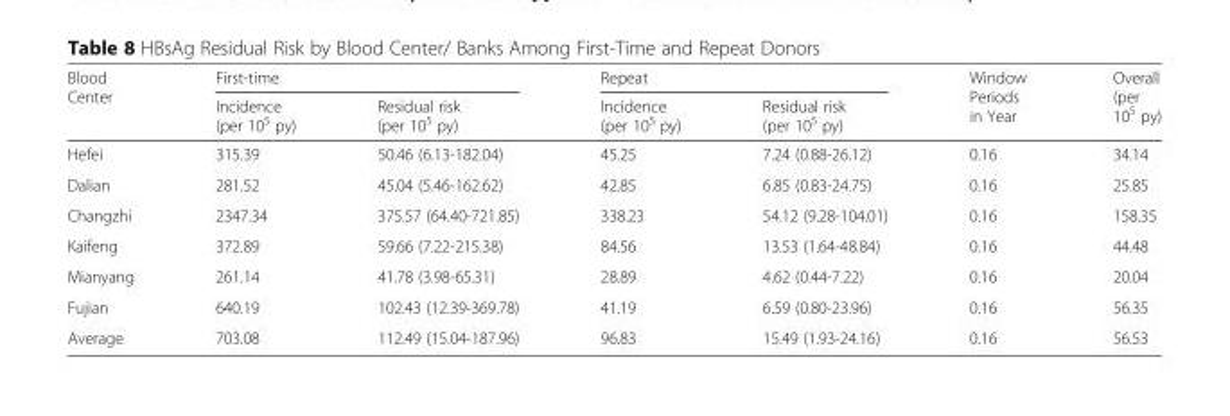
<table><thead><tr><td rowspan="2">Blood Center</td><td colspan="2">First-time</td><td colspan="2">Repeat</td><td rowspan="2">Window Periods in Year</td><td rowspan="2">Overall (per 10<sup>5</sup> py)</td></tr><tr><td>Incidence (per 10<sup>5</sup> py)</td><td>Residual risk (per 10<sup>5</sup> py)</td><td>Incidence (per 10<sup>5</sup> py)</td><td>Residual risk (per 10<sup>5</sup> py)</td></tr></thead><tbody><tr><td>Hefei</td><td>315.39</td><td>50.46 (6.13-182.04)</td><td>45.25</td><td>7.24 (0.88-26.12)</td><td>0.16</td><td>34.14</td></tr><tr><td>Dalian</td><td>281.52</td><td>45.04 (5.46-162.62)</td><td>42.85</td><td>6.85 (0.83-24.75)</td><td>0.16</td><td>25.85</td></tr><tr><td>Changzhi</td><td>2347.34</td><td>375.57 (64.40-721.85)</td><td>338.23</td><td>54.12 (9.28-104.01)</td><td>0.16</td><td>158.35</td></tr><tr><td>Kaifeng</td><td>372.89</td><td>59.66 (7.22-215.38)</td><td>84.56</td><td>13.53 (1.64-48.84)</td><td>0.16</td><td>44.48</td></tr><tr><td>Mianyang</td><td>261.14</td><td>41.78 (3.98-65.31)</td><td>28.89</td><td>4.62 (0.44-7.22)</td><td>0.16</td><td>20.04</td></tr><tr><td>Fujian</td><td>640.19</td><td>102.43 (12.39-369.78)</td><td>41.19</td><td>6.59 (0.80-23.96)</td><td>0.16</td><td>56.35</td></tr><tr><td>Average</td><td>703.08</td><td>112.49 (15.04-187.96)</td><td>96.83</td><td>15.49 (1.93-24.16)</td><td>0.16</td><td>56.53</td></tr></tbody></table>